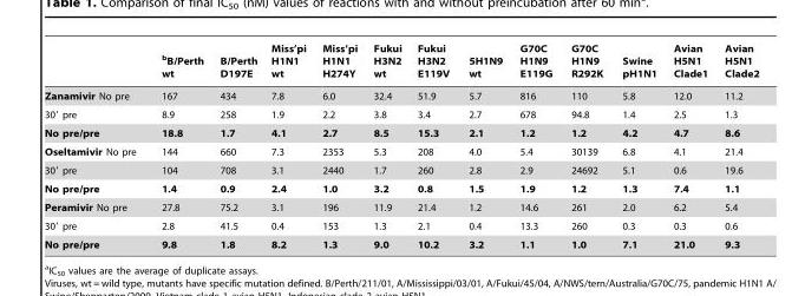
<table><thead><tr><td></td><td><sup>b</sup>B/Perth wt</td><td>B/Perth D197E</td><td>Miss’pi H1N1 wt</td><td>Miss’pi H1N1 H274Y</td><td>Fukui H3N2 wt</td><td>Fukui H3N2 E119V</td><td>5H1N9 wt</td><td>G70C H1N9 E119G</td><td>G70C H1N9 R292K</td><td>Swine pH1N1</td><td>Avian H5N1 Clade1</td><td>Avian H5N1 Clade2</td></tr></thead><tbody><tr><td>Zanamivir No pre</td><td>167</td><td>434</td><td>7.8</td><td>6.0</td><td>32.4</td><td>51.9</td><td>5.7</td><td>816</td><td>110</td><td>5.8</td><td>12.0</td><td>11.2</td></tr><tr><td>30′ pre</td><td>8.9</td><td>258</td><td>1.9</td><td>2.2</td><td>3.8</td><td>3.4</td><td>2.7</td><td>678</td><td>94.8</td><td>1.4</td><td>2.5</td><td>1.3</td></tr><tr><td>No pre/pre</td><td>18.8</td><td>1.7</td><td>4.1</td><td>2.7</td><td>8.5</td><td>15.3</td><td>2.1</td><td>1.2</td><td>1.2</td><td>4.2</td><td>4.7</td><td>8.6</td></tr><tr><td>Oseltamivir No pre</td><td>144</td><td>660</td><td>7.3</td><td>2353</td><td>5.3</td><td>208</td><td>4.0</td><td>5.4</td><td>30139</td><td>6.8</td><td>4.1</td><td>21.4</td></tr><tr><td>30′ pre</td><td>104</td><td>708</td><td>3.1</td><td>2440</td><td>1.7</td><td>260</td><td>2.8</td><td>2.9</td><td>24692</td><td>5.1</td><td>0.6</td><td>19.6</td></tr><tr><td>No pre/pre</td><td>1.4</td><td>0.9</td><td>2.4</td><td>1.0</td><td>3.2</td><td>0.8</td><td>1.5</td><td>1.9</td><td>1.2</td><td>1.3</td><td>7.4</td><td>1.1</td></tr><tr><td>Peramivir No pre</td><td>27.8</td><td>75.2</td><td>3.1</td><td>196</td><td>11.9</td><td>21.4</td><td>1.2</td><td>14.6</td><td>261</td><td>2.0</td><td>6.2</td><td>5.4</td></tr><tr><td>30′ pre</td><td>2.8</td><td>41.5</td><td>0.4</td><td>153</td><td>1.3</td><td>2.1</td><td>0.4</td><td>13.3</td><td>260</td><td>0.3</td><td>0.3</td><td>0.6</td></tr><tr><td>No pre/pre</td><td>9.8</td><td>1.8</td><td>8.2</td><td>1.3</td><td>9.0</td><td>10.2</td><td>3.2</td><td>1.1</td><td>1.0</td><td>7.1</td><td>21.0</td><td>9.3</td></tr></tbody></table>